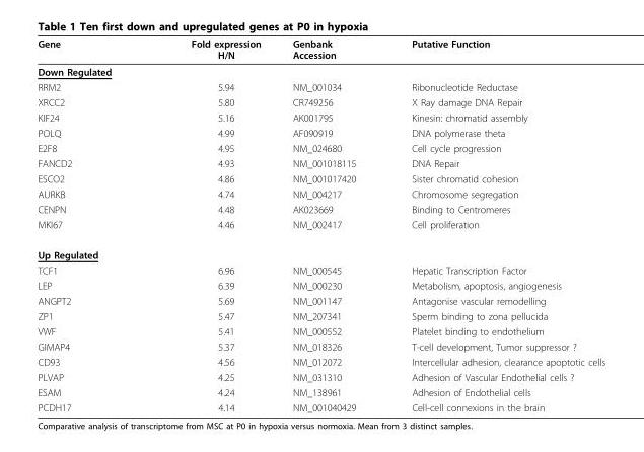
<table><thead><tr><td>Gene</td><td>Fold expression H/N</td><td>Genbank Accession</td><td>Putative Function</td></tr></thead><tbody><tr><td colspan="4">Down Regulated</td></tr><tr><td>RRM2</td><td>5.94</td><td>NM_001034</td><td>Ribonucleotide Reductase</td></tr><tr><td>XRCC2</td><td>5.80</td><td>CR749256</td><td>X Ray damage DNA Repair</td></tr><tr><td>KIF24</td><td>5.16</td><td>AK001795</td><td>Kinesin: chromatid assembly</td></tr><tr><td>POLQ</td><td>4.99</td><td>AF090919</td><td>DNA polymerase theta</td></tr><tr><td>E2F8</td><td>4.95</td><td>NM_024680</td><td>Cell cycle progression</td></tr><tr><td>FANCD2</td><td>4.93</td><td>NM_001018115</td><td>DNA Repair</td></tr><tr><td>ESCO2</td><td>4.86</td><td>NM_001017420</td><td>Sister chromatid cohesion</td></tr><tr><td>AURKB</td><td>4.74</td><td>NM_004217</td><td>Chromosome segregation</td></tr><tr><td>CENPN</td><td>4.48</td><td>AK023669</td><td>Binding to Centromeres</td></tr><tr><td>MKI67</td><td>4.46</td><td>NM_002417</td><td>Cell proliferation</td></tr><tr><td colspan="4">Up Regulated</td></tr><tr><td>TCF1</td><td>6.96</td><td>NM_000545</td><td>Hepatic Transcription Factor</td></tr><tr><td>LEP</td><td>6.39</td><td>NM_000230</td><td>Metabolism, apoptosis, angiogenesis</td></tr><tr><td>ANGPT2</td><td>5.69</td><td>NM_001147</td><td>Antagonise vascular remodelling</td></tr><tr><td>ZP1</td><td>5.47</td><td>NM_207341</td><td>Sperm binding to zona pellucida</td></tr><tr><td>VWF</td><td>5.41</td><td>NM_000552</td><td>Platelet binding to endothelium</td></tr><tr><td>GIMAP4</td><td>5.37</td><td>NM_018326</td><td>T-cell development, Tumor suppressor ?</td></tr><tr><td>CD93</td><td>4.56</td><td>NM_012072</td><td>Intercellular adhesion, clearance apoptotic cells</td></tr><tr><td>PLVAP</td><td>4.25</td><td>NM_031310</td><td>Adhesion of Vascular Endothelial cells ?</td></tr><tr><td>ESAM</td><td>4.24</td><td>NM_138961</td><td>Adhesion of Endothelial cells</td></tr><tr><td>PCDH17</td><td>4.14</td><td>NM_001040429</td><td>Cell-cell connexions in the brain</td></tr></tbody></table>